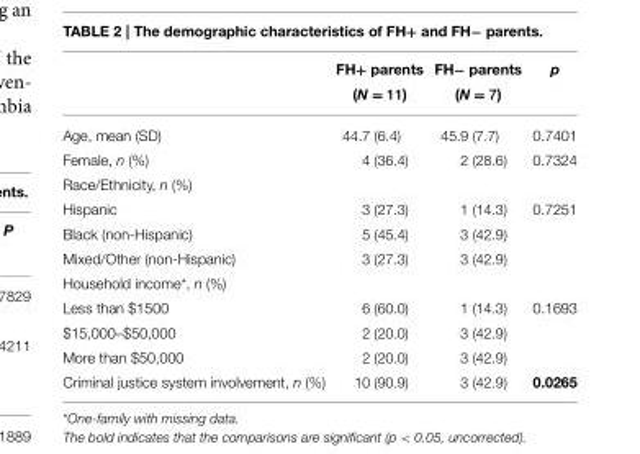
<table><thead><tr><td></td><td>FH+ parents (N = 11)</td><td>FH− parents (N = 7)</td><td>p</td></tr></thead><tbody><tr><td>Age, mean (SD)</td><td>44.7 (6.4)</td><td>45.9 (7.7)</td><td>0.7401</td></tr><tr><td>Female, n (%)</td><td>4 (36.4)</td><td>2 (28.6)</td><td>0.7324</td></tr><tr><td colspan="4">Race/Ethnicity, n (%)</td></tr><tr><td>Hispanic</td><td>3 (27.3)</td><td>1 (14.3)</td><td>0.7251</td></tr><tr><td>Black (non-Hispanic)</td><td>5 (45.4)</td><td>3 (42.9)</td><td></td></tr><tr><td>Mixed/Other (non-Hispanic)</td><td>3 (27.3)</td><td>3 (42.9)</td><td></td></tr><tr><td colspan="4">Household income*, n (%)</td></tr><tr><td>Less than $1500</td><td>6 (60.0)</td><td>1 (14.3)</td><td>0.1693</td></tr><tr><td>$15,000–$50,000</td><td>2 (20.0)</td><td>3 (42.9)</td><td></td></tr><tr><td>More than $50,000</td><td>2 (20.0)</td><td>3 (42.9)</td><td></td></tr><tr><td>Criminal justice system involvement, n (%)</td><td>10 (90.9)</td><td>3 (42.9)</td><td>0.0265</td></tr></tbody></table>